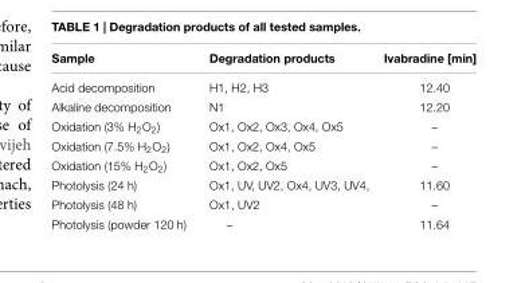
<table><thead><tr><td>Sample</td><td>Degradation products</td><td>Ivabradine [min]</td></tr></thead><tbody><tr><td>Acid decomposition</td><td>H1, H2, H3</td><td>12.40</td></tr><tr><td>Alkaline decomposition</td><td>N1</td><td>12.20</td></tr><tr><td>Oxidation (3% H<sub>2</sub>O<sub>2</sub>)</td><td>Ox1, Ox2, Ox3, Ox4, Ox5</td><td>–</td></tr><tr><td>Oxidation (7.5% H<sub>2</sub>O<sub>2</sub>)</td><td>Ox1, Ox2, Ox4, Ox5</td><td>–</td></tr><tr><td>Oxidation (15% H<sub>2</sub>O<sub>2</sub>)</td><td>Ox1, Ox2, Ox5</td><td>–</td></tr><tr><td>Photolysis (24 h)</td><td>Ox1, UV, UV2, Ox4, UV3, UV4,</td><td>11.60</td></tr><tr><td>Photolysis (48 h)</td><td>Ox1, UV2</td><td>–</td></tr><tr><td>Photolysis (powder 120 h)</td><td>–</td><td>11.64</td></tr></tbody></table>